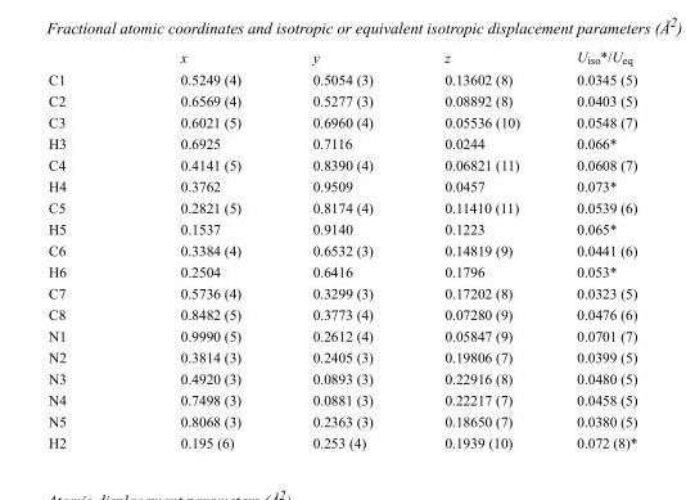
<table><thead><tr><td></td><td>x</td><td>y</td><td>z</td><td>U<sub>iso</sub>*/U<sub>eq</sub></td></tr></thead><tbody><tr><td>C1</td><td>0.5249 (4)</td><td>0.5054 (3)</td><td>0.13602 (8)</td><td>0.0345 (5)</td></tr><tr><td>C2</td><td>0.6569 (4)</td><td>0.5277 (3)</td><td>0.08892 (8)</td><td>0.0403 (5)</td></tr><tr><td>C3</td><td>0.6021 (5)</td><td>0.6960 (4)</td><td>0.05536 (10)</td><td>0.0548 (7)</td></tr><tr><td>H3</td><td>0.6925</td><td>0.7116</td><td>0.0244</td><td>0.066*</td></tr><tr><td>C4</td><td>0.4141 (5)</td><td>0.8390 (4)</td><td>0.06821 (11)</td><td>0.0608 (7)</td></tr><tr><td>H4</td><td>0.3762</td><td>0.9509</td><td>0.0457</td><td>0.073*</td></tr><tr><td>C5</td><td>0.2821 (5)</td><td>0.8174 (4)</td><td>0.11410 (11)</td><td>0.0539 (6)</td></tr><tr><td>H5</td><td>0.1537</td><td>0.9140</td><td>0.1223</td><td>0.065*</td></tr><tr><td>C6</td><td>0.3384 (4)</td><td>0.6532 (3)</td><td>0.14819 (9)</td><td>0.0441 (6)</td></tr><tr><td>H6</td><td>0.2504</td><td>0.6416</td><td>0.1796</td><td>0.053*</td></tr><tr><td>C7</td><td>0.5736 (4)</td><td>0.3299 (3)</td><td>0.17202 (8)</td><td>0.0323 (5)</td></tr><tr><td>C8</td><td>0.8482 (5)</td><td>0.3773 (4)</td><td>0.07280 (9)</td><td>0.0476 (6)</td></tr><tr><td>N1</td><td>0.9990 (5)</td><td>0.2612 (4)</td><td>0.05847 (9)</td><td>0.0701 (7)</td></tr><tr><td>N2</td><td>0.3814 (3)</td><td>0.2405 (3)</td><td>0.19806 (7)</td><td>0.0399 (5)</td></tr><tr><td>N3</td><td>0.4920 (3)</td><td>0.0893 (3)</td><td>0.22916 (8)</td><td>0.0480 (5)</td></tr><tr><td>N4</td><td>0.7498 (3)</td><td>0.0881 (3)</td><td>0.22217 (7)</td><td>0.0458 (5)</td></tr><tr><td>N5</td><td>0.8068 (3)</td><td>0.2363 (3)</td><td>0.18650 (7)</td><td>0.0380 (5)</td></tr><tr><td>H2</td><td>0.195 (6)</td><td>0.253 (4)</td><td>0.1939 (10)</td><td>0.072 (8)*</td></tr></tbody></table>